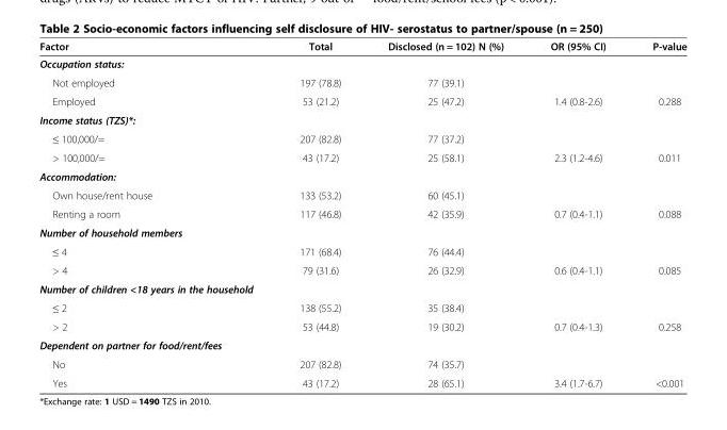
<table><thead><tr><td>Factor</td><td>Total</td><td>Disclosed (n = 102) N (%)</td><td>OR (95% CI)</td><td>P-value</td></tr></thead><tbody><tr><td colspan="5">Occupation status:</td></tr><tr><td>Not employed</td><td>197 (78.8)</td><td>77 (39.1)</td><td></td><td></td></tr><tr><td>Employed</td><td>53 (21.2)</td><td>25 (47.2)</td><td>1.4 (0.8-2.6)</td><td>0.288</td></tr><tr><td colspan="5">Income status (TZS)*:</td></tr><tr><td>≤ 100,000/=</td><td>207 (82.8)</td><td>77 (37.2)</td><td></td><td></td></tr><tr><td>&gt; 100,000/=</td><td>43 (17.2)</td><td>25 (58.1)</td><td>2.3 (1.2-4.6)</td><td>0.011</td></tr><tr><td colspan="5">Accommodation:</td></tr><tr><td>Own house/rent house</td><td>133 (53.2)</td><td>60 (45.1)</td><td></td><td></td></tr><tr><td>Renting a room</td><td>117 (46.8)</td><td>42 (35.9)</td><td>0.7 (0.4-1.1)</td><td>0.088</td></tr><tr><td colspan="5">Number of household members</td></tr><tr><td>≤ 4</td><td>171 (68.4)</td><td>76 (44.4)</td><td></td><td></td></tr><tr><td>&gt; 4</td><td>79 (31.6)</td><td>26 (32.9)</td><td>0.6 (0.4-1.1)</td><td>0.085</td></tr><tr><td colspan="5">Number of children &lt;18 years in the household</td></tr><tr><td>≤ 2</td><td>138 (55.2)</td><td>35 (38.4)</td><td></td><td></td></tr><tr><td>&gt; 2</td><td>53 (44.8)</td><td>19 (30.2)</td><td>0.7 (0.4-1.3)</td><td>0.258</td></tr><tr><td colspan="5">Dependent on partner for food/rent/fees</td></tr><tr><td>No</td><td>207 (82.8)</td><td>74 (35.7)</td><td></td><td></td></tr><tr><td>Yes</td><td>43 (17.2)</td><td>28 (65.1)</td><td>3.4 (1.7-6.7)</td><td>&lt;0.001</td></tr></tbody></table>